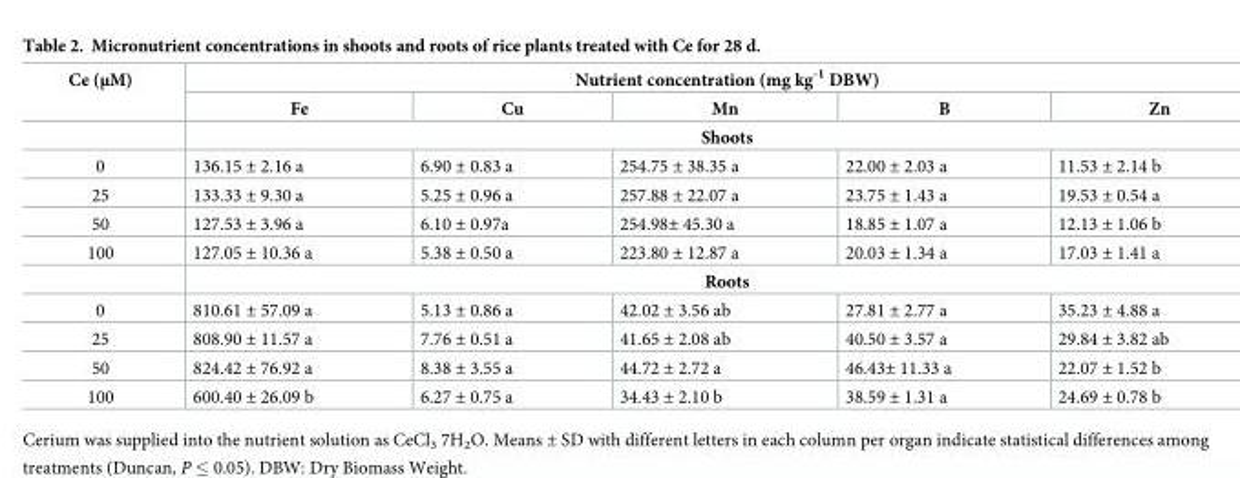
<table><thead><tr><td rowspan="2">Ce (μM)</td><td colspan="5">Nutrient concentration (mg kg<sup>-1</sup> DBW)</td></tr><tr><td>Fe</td><td>Cu</td><td>Mn</td><td>B</td><td>Zn</td></tr></thead><tbody><tr><td></td><td colspan="5">Shoots</td></tr><tr><td>0</td><td>136.15 ± 2.16 a</td><td>6.90 ± 0.83 a</td><td>254.75 ± 38.35 a</td><td>22.00 ± 2.03 a</td><td>11.53 ± 2.14 b</td></tr><tr><td>25</td><td>133.33 ± 9.30 a</td><td>5.25 ± 0.96 a</td><td>257.88 ± 22.07 a</td><td>23.75 ± 1.43 a</td><td>19.53 ± 0.54 a</td></tr><tr><td>50</td><td>127.53 ± 3.96 a</td><td>6.10 ± 0.97a</td><td>254.98± 45.30 a</td><td>18.85 ± 1.07 a</td><td>12.13 ± 1.06 b</td></tr><tr><td rowspan="2">100</td><td>127.05 ± 10.36 a</td><td>5.38 ± 0.50 a</td><td>223.80 ± 12.87 a</td><td>20.03 ± 1.34 a</td><td>17.03 ± 1.41 a</td></tr><tr><td colspan="5">Roots</td></tr><tr><td>0</td><td>810.61 ± 57.09 a</td><td>5.13 ± 0.86 a</td><td>42.02 ± 3.56 ab</td><td>27.81 ± 2.77 a</td><td>35.23 ± 4.88 a</td></tr><tr><td>25</td><td>808.90 ± 11.57 a</td><td>7.76 ± 0.51 a</td><td>41.65 ± 2.08 ab</td><td>40.50 ± 3.57 a</td><td>29.84 ± 3.82 ab</td></tr><tr><td>50</td><td>824.42 ± 76.92 a</td><td>8.38 ± 3.55 a</td><td>44.72 ± 2.72 a</td><td>46.43± 11.33 a</td><td>22.07 ± 1.52 b</td></tr><tr><td>100</td><td>600.40 ± 26.09 b</td><td>6.27 ± 0.75 a</td><td>34.43 ± 2.10 b</td><td>38.59 ± 1.31 a</td><td>24.69 ± 0.78 b</td></tr></tbody></table>